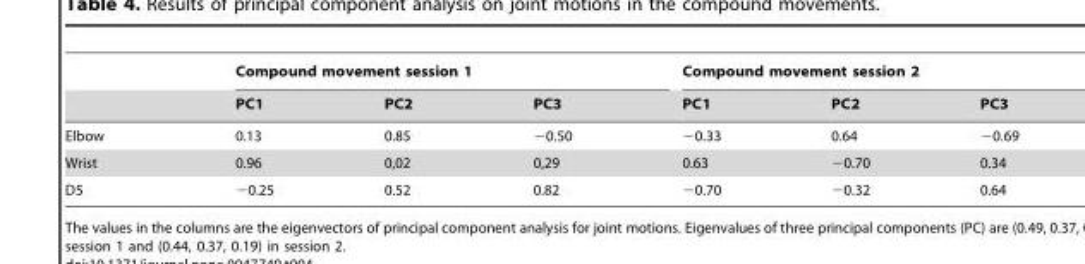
<table><thead><tr><td rowspan="2"></td><td colspan="3">Compound movement session 1</td><td colspan="3">Compound movement session 2</td></tr><tr><td>PC1</td><td>PC2</td><td>PC3</td><td>PC1</td><td>PC2</td><td>PC3</td></tr></thead><tbody><tr><td>Elbow</td><td>0.13</td><td>0.85</td><td>−0.50</td><td>−0.33</td><td>0.64</td><td>−0.69</td></tr><tr><td>Wrist</td><td>0.96</td><td>0,02</td><td>0,29</td><td>0.63</td><td>−0.70</td><td>0.34</td></tr><tr><td>D5</td><td>−0.25</td><td>0.52</td><td>0.82</td><td>−0.70</td><td>−0.32</td><td>0.64</td></tr></tbody></table>